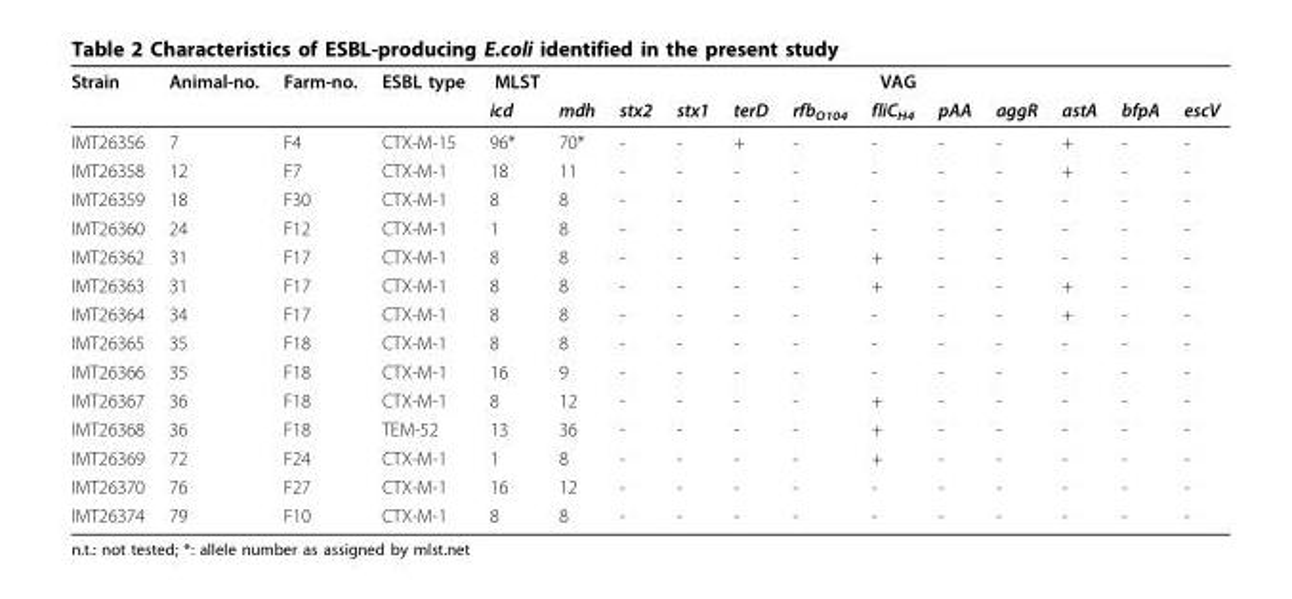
<table><thead><tr><td rowspan="2">Strain</td><td rowspan="2">Animal-no.</td><td rowspan="2">Farm-no.</td><td rowspan="2">ESBL type</td><td rowspan="2">MLST icd</td><td rowspan="2">mdh</td><td rowspan="2">stx2</td><td rowspan="2">stx1</td><td rowspan="2">terD</td><td rowspan="2">rfb<sub>O104</sub></td><td rowspan="2">VAG fliC<sub>H4</sub></td><td rowspan="2">pAA</td><td rowspan="2">aggR</td><td rowspan="2">astA</td><td rowspan="2">bfpA</td><td rowspan="2">escV</td></tr><tr></tr></thead><tbody><tr><td>IMT26356</td><td>7</td><td>F4</td><td>CTX-M-15</td><td>96*</td><td>70*</td><td>-</td><td>-</td><td>+</td><td>-</td><td>-</td><td>-</td><td>-</td><td>+</td><td>-</td><td>-</td></tr><tr><td>IMT26358</td><td>12</td><td>F7</td><td>CTX-M-1</td><td>18</td><td>11</td><td>-</td><td>-</td><td>-</td><td>-</td><td>-</td><td>-</td><td>-</td><td>+</td><td>-</td><td>-</td></tr><tr><td>IMT26359</td><td>18</td><td>F30</td><td>CTX-M-1</td><td>8</td><td>8</td><td>-</td><td>-</td><td>-</td><td>-</td><td>-</td><td>-</td><td>-</td><td>-</td><td>-</td><td>-</td></tr><tr><td>IMT26360</td><td>24</td><td>F12</td><td>CTX-M-1</td><td>1</td><td>8</td><td>-</td><td>-</td><td>-</td><td>-</td><td>-</td><td>-</td><td>-</td><td>-</td><td>-</td><td>-</td></tr><tr><td>IMT26362</td><td>31</td><td>F17</td><td>CTX-M-1</td><td>8</td><td>8</td><td>-</td><td>-</td><td>-</td><td>-</td><td>+</td><td>-</td><td>-</td><td>-</td><td>-</td><td>-</td></tr><tr><td>IMT26363</td><td>31</td><td>F17</td><td>CTX-M-1</td><td>8</td><td>8</td><td>-</td><td>-</td><td>-</td><td>-</td><td>+</td><td>-</td><td>-</td><td>+</td><td>-</td><td>-</td></tr><tr><td>IMT26364</td><td>34</td><td>F17</td><td>CTX-M-1</td><td>8</td><td>8</td><td>-</td><td>-</td><td>-</td><td>-</td><td>-</td><td>-</td><td>-</td><td>+</td><td>-</td><td>-</td></tr><tr><td>IMT26365</td><td>35</td><td>F18</td><td>CTX-M-1</td><td>8</td><td>8</td><td>-</td><td>-</td><td>-</td><td>-</td><td>-</td><td>-</td><td>-</td><td>-</td><td>-</td><td>-</td></tr><tr><td>IMT26366</td><td>35</td><td>F18</td><td>CTX-M-1</td><td>16</td><td>9</td><td>-</td><td>-</td><td>-</td><td>-</td><td>-</td><td>-</td><td>-</td><td>-</td><td>-</td><td>-</td></tr><tr><td>IMT26367</td><td>36</td><td>F18</td><td>CTX-M-1</td><td>8</td><td>12</td><td>-</td><td>-</td><td>-</td><td>-</td><td>+</td><td>-</td><td>-</td><td>-</td><td>-</td><td>-</td></tr><tr><td>IMT26368</td><td>36</td><td>F18</td><td>TEM-52</td><td>13</td><td>36</td><td>-</td><td>-</td><td>-</td><td>-</td><td>+</td><td>-</td><td>-</td><td>-</td><td>-</td><td>-</td></tr><tr><td>IMT26369</td><td>72</td><td>F24</td><td>CTX-M-1</td><td>1</td><td>8</td><td>-</td><td>-</td><td>-</td><td>-</td><td>+</td><td>-</td><td>-</td><td>-</td><td>-</td><td>-</td></tr><tr><td>IMT26370</td><td>76</td><td>F27</td><td>CTX-M-1</td><td>16</td><td>12</td><td>-</td><td>-</td><td>-</td><td>-</td><td>-</td><td>-</td><td>-</td><td>-</td><td>-</td><td>-</td></tr><tr><td>IMT26374</td><td>79</td><td>F10</td><td>CTX-M-1</td><td>8</td><td>8</td><td>-</td><td>-</td><td>-</td><td>-</td><td>-</td><td>-</td><td>-</td><td>-</td><td>-</td><td>-</td></tr></tbody></table>